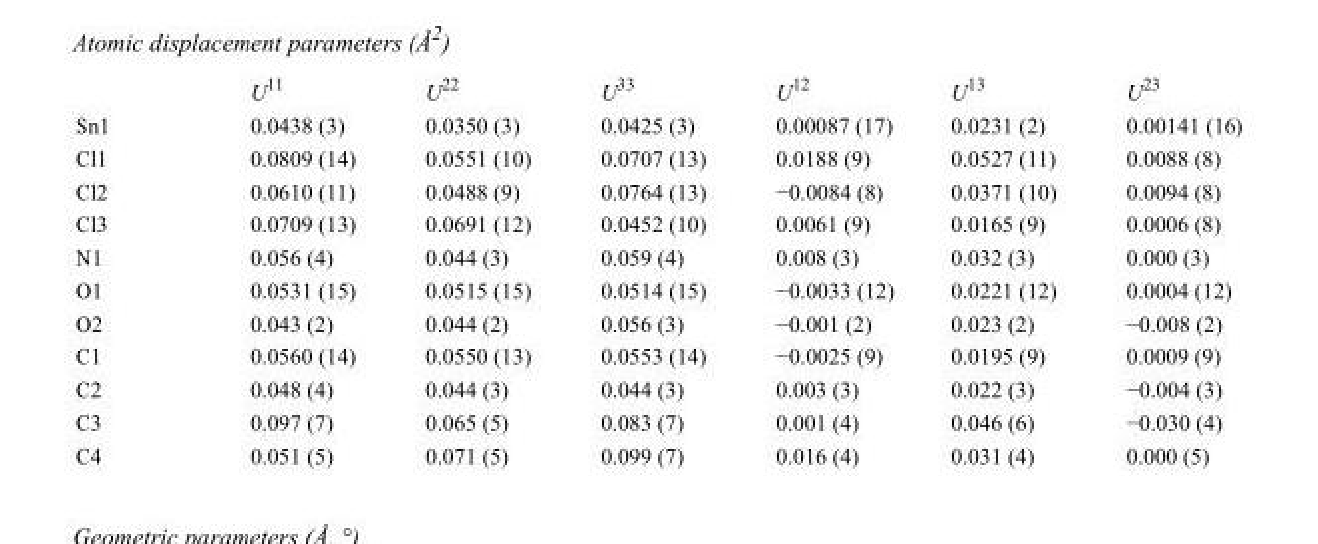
<table><thead><tr><td></td><td>U<sup>11</sup></td><td>U<sup>22</sup></td><td>U<sup>33</sup></td><td>U<sup>12</sup></td><td>U<sup>13</sup></td><td>U<sup>23</sup></td></tr></thead><tbody><tr><td>Sn1</td><td>0.0438 (3)</td><td>0.0350 (3)</td><td>0.0425 (3)</td><td>0.00087 (17)</td><td>0.0231 (2)</td><td>0.00141 (16)</td></tr><tr><td>Cl1</td><td>0.0809 (14)</td><td>0.0551 (10)</td><td>0.0707 (13)</td><td>0.0188 (9)</td><td>0.0527 (11)</td><td>0.0088 (8)</td></tr><tr><td>Cl2</td><td>0.0610 (11)</td><td>0.0488 (9)</td><td>0.0764 (13)</td><td>−0.0084 (8)</td><td>0.0371 (10)</td><td>0.0094 (8)</td></tr><tr><td>Cl3</td><td>0.0709 (13)</td><td>0.0691 (12)</td><td>0.0452 (10)</td><td>0.0061 (9)</td><td>0.0165 (9)</td><td>0.0006 (8)</td></tr><tr><td>N1</td><td>0.056 (4)</td><td>0.044 (3)</td><td>0.059 (4)</td><td>0.008 (3)</td><td>0.032 (3)</td><td>0.000 (3)</td></tr><tr><td>O1</td><td>0.0531 (15)</td><td>0.0515 (15)</td><td>0.0514 (15)</td><td>−0.0033 (12)</td><td>0.0221 (12)</td><td>0.0004 (12)</td></tr><tr><td>O2</td><td>0.043 (2)</td><td>0.044 (2)</td><td>0.056 (3)</td><td>−0.001 (2)</td><td>0.023 (2)</td><td>−0.008 (2)</td></tr><tr><td>C1</td><td>0.0560 (14)</td><td>0.0550 (13)</td><td>0.0553 (14)</td><td>−0.0025 (9)</td><td>0.0195 (9)</td><td>0.0009 (9)</td></tr><tr><td>C2</td><td>0.048 (4)</td><td>0.044 (3)</td><td>0.044 (3)</td><td>0.003 (3)</td><td>0.022 (3)</td><td>−0.004 (3)</td></tr><tr><td>C3</td><td>0.097 (7)</td><td>0.065 (5)</td><td>0.083 (7)</td><td>0.001 (4)</td><td>0.046 (6)</td><td>−0.030 (4)</td></tr><tr><td>C4</td><td>0.051 (5)</td><td>0.071 (5)</td><td>0.099 (7)</td><td>0.016 (4)</td><td>0.031 (4)</td><td>0.000 (5)</td></tr></tbody></table>